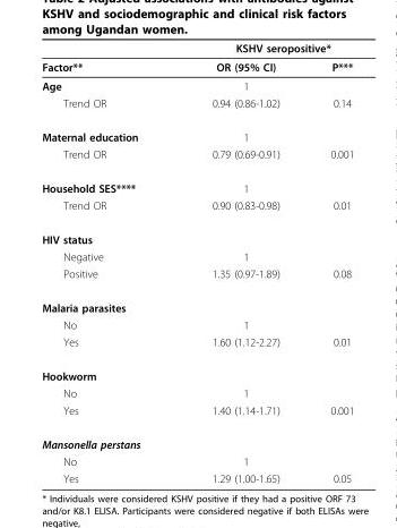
<table><thead><tr><td rowspan="2">Factor**</td><td colspan="2">KSHV seropositive*</td></tr><tr><td>OR (95% CI)</td><td>P***</td></tr></thead><tbody><tr><td>Age</td><td>1</td><td></td></tr><tr><td>Trend OR</td><td>0.94 (0.86-1.02)</td><td>0.14</td></tr><tr><td>Maternal education</td><td>1</td><td></td></tr><tr><td>Trend OR</td><td>0.79 (0.69-0.91)</td><td>0.001</td></tr><tr><td>Household SES****</td><td>1</td><td></td></tr><tr><td>Trend OR</td><td>0.90 (0.83-0.98)</td><td>0.01</td></tr><tr><td colspan="3">HIV status</td></tr><tr><td>Negative</td><td>1</td><td></td></tr><tr><td>Positive</td><td>1.35 (0.97-1.89)</td><td>0.08</td></tr><tr><td colspan="3">Malaria parasites</td></tr><tr><td>No</td><td>1</td><td></td></tr><tr><td>Yes</td><td>1.60 (1.12-2.27)</td><td>0.01</td></tr><tr><td colspan="3">Hookworm</td></tr><tr><td>No</td><td>1</td><td></td></tr><tr><td>Yes</td><td>1.40 (1.14-1.71)</td><td>0.001</td></tr><tr><td colspan="3">Mansonella perstans</td></tr><tr><td>No</td><td>1</td><td></td></tr><tr><td>Yes</td><td>1.29 (1.00-1.65)</td><td>0.05</td></tr></tbody></table>